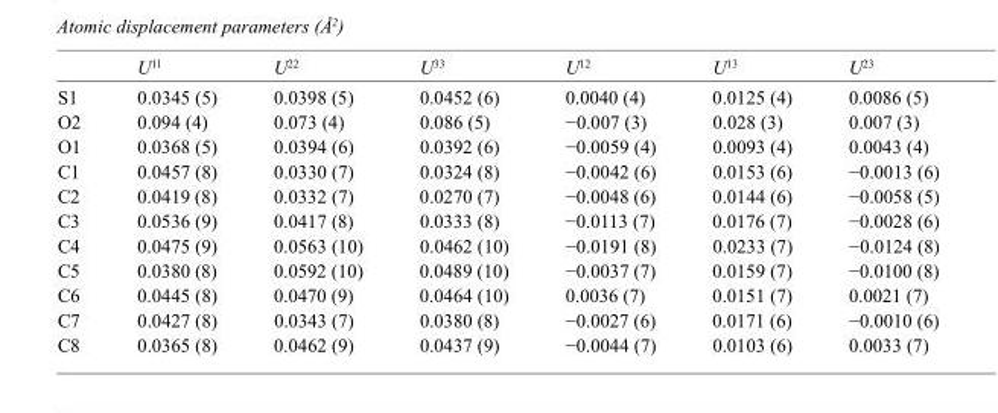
<table><thead><tr><td></td><td>U<sup>11</sup></td><td>U<sup>22</sup></td><td>U<sup>33</sup></td><td>U<sup>12</sup></td><td>U<sup>13</sup></td><td>U<sup>23</sup></td></tr></thead><tbody><tr><td>S1</td><td>0.0345 (5)</td><td>0.0398 (5)</td><td>0.0452 (6)</td><td>0.0040 (4)</td><td>0.0125 (4)</td><td>0.0086 (5)</td></tr><tr><td>O2</td><td>0.094 (4)</td><td>0.073 (4)</td><td>0.086 (5)</td><td>−0.007 (3)</td><td>0.028 (3)</td><td>0.007 (3)</td></tr><tr><td>O1</td><td>0.0368 (5)</td><td>0.0394 (6)</td><td>0.0392 (6)</td><td>−0.0059 (4)</td><td>0.0093 (4)</td><td>0.0043 (4)</td></tr><tr><td>C1</td><td>0.0457 (8)</td><td>0.0330 (7)</td><td>0.0324 (8)</td><td>−0.0042 (6)</td><td>0.0153 (6)</td><td>−0.0013 (6)</td></tr><tr><td>C2</td><td>0.0419 (8)</td><td>0.0332 (7)</td><td>0.0270 (7)</td><td>−0.0048 (6)</td><td>0.0144 (6)</td><td>−0.0058 (5)</td></tr><tr><td>C3</td><td>0.0536 (9)</td><td>0.0417 (8)</td><td>0.0333 (8)</td><td>−0.0113 (7)</td><td>0.0176 (7)</td><td>−0.0028 (6)</td></tr><tr><td>C4</td><td>0.0475 (9)</td><td>0.0563 (10)</td><td>0.0462 (10)</td><td>−0.0191 (8)</td><td>0.0233 (7)</td><td>−0.0124 (8)</td></tr><tr><td>C5</td><td>0.0380 (8)</td><td>0.0592 (10)</td><td>0.0489 (10)</td><td>−0.0037 (7)</td><td>0.0159 (7)</td><td>−0.0100 (8)</td></tr><tr><td>C6</td><td>0.0445 (8)</td><td>0.0470 (9)</td><td>0.0464 (10)</td><td>0.0036 (7)</td><td>0.0151 (7)</td><td>0.0021 (7)</td></tr><tr><td>C7</td><td>0.0427 (8)</td><td>0.0343 (7)</td><td>0.0380 (8)</td><td>−0.0027 (6)</td><td>0.0171 (6)</td><td>−0.0010 (6)</td></tr><tr><td>C8</td><td>0.0365 (8)</td><td>0.0462 (9)</td><td>0.0437 (9)</td><td>−0.0044 (7)</td><td>0.0103 (6)</td><td>0.0033 (7)</td></tr></tbody></table>